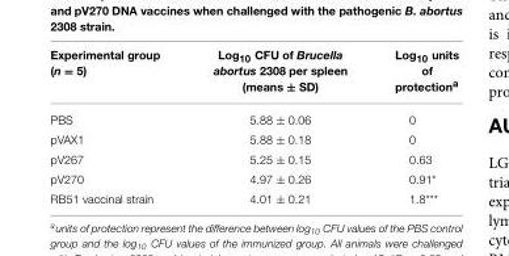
<table><thead><tr><td>Experimental group (n = 5)</td><td>Log<sub>10</sub> CFU of Brucella abortus 2308 per spleen (means ± SD)</td><td>Log<sub>10</sub> units of protection<sup>a</sup></td></tr></thead><tbody><tr><td>PBS</td><td>5.88 ± 0.06</td><td>0</td></tr><tr><td>pVAX1</td><td>5.88 ± 0.18</td><td>0</td></tr><tr><td>pV267</td><td>5.25 ± 0.15</td><td>0.63</td></tr><tr><td>pV270</td><td>4.97 ± 0.26</td><td>0.91*</td></tr><tr><td>RB51 vaccinal strain</td><td>4.01 ± 0.21</td><td>1.8***</td></tr></tbody></table>